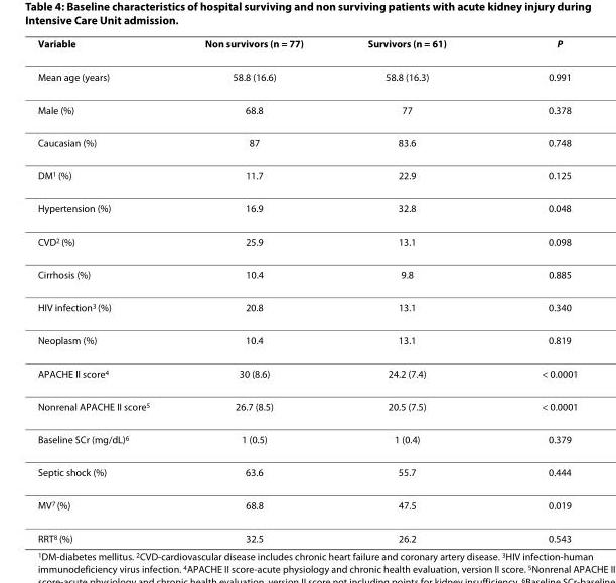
<table><thead><tr><td>Variable</td><td>Non survivors (n = 77)</td><td>Survivors (n = 61)</td><td>P</td></tr></thead><tbody><tr><td>Mean age (years)</td><td>58.8 (16.6)</td><td>58.8 (16.3)</td><td>0.991</td></tr><tr><td>Male (%)</td><td>68.8</td><td>77</td><td>0.378</td></tr><tr><td>Caucasian (%)</td><td>87</td><td>83.6</td><td>0.748</td></tr><tr><td>DM<sup>1</sup> (%)</td><td>11.7</td><td>22.9</td><td>0.125</td></tr><tr><td>Hypertension (%)</td><td>16.9</td><td>32.8</td><td>0.048</td></tr><tr><td>CVD<sup>2</sup> (%)</td><td>25.9</td><td>13.1</td><td>0.098</td></tr><tr><td>Cirrhosis (%)</td><td>10.4</td><td>9.8</td><td>0.885</td></tr><tr><td>HIV infection<sup>3</sup> (%)</td><td>20.8</td><td>13.1</td><td>0.340</td></tr><tr><td>Neoplasm (%)</td><td>10.4</td><td>13.1</td><td>0.819</td></tr><tr><td>APACHE II score<sup>4</sup></td><td>30 (8.6)</td><td>24.2 (7.4)</td><td>&lt; 0.0001</td></tr><tr><td>Nonrenal APACHE II score<sup>5</sup></td><td>26.7 (8.5)</td><td>20.5 (7.5)</td><td>&lt; 0.0001</td></tr><tr><td>Baseline SCr (mg/dL)<sup>6</sup></td><td>1 (0.5)</td><td>1 (0.4)</td><td>0.379</td></tr><tr><td>Septic shock (%)</td><td>63.6</td><td>55.7</td><td>0.444</td></tr><tr><td>MV<sup>7</sup> (%)</td><td>68.8</td><td>47.5</td><td>0.019</td></tr><tr><td>RRT<sup>8</sup> (%)</td><td>32.5</td><td>26.2</td><td>0.543</td></tr></tbody></table>